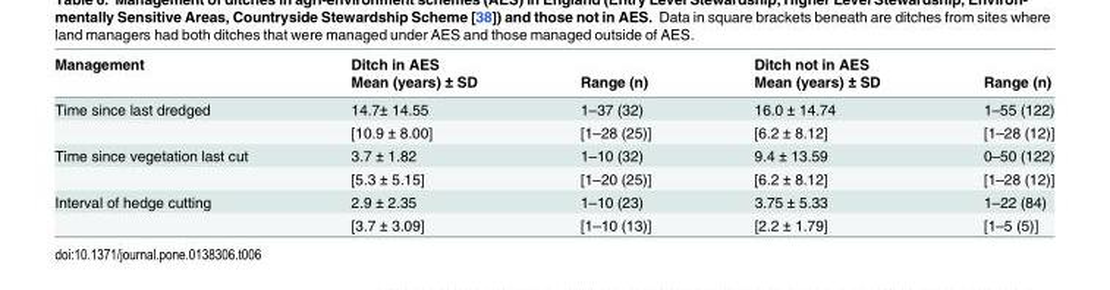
<table><thead><tr><td rowspan="2">Management</td><td rowspan="2">Ditch in AES Mean (years) ± SD</td><td rowspan="2">Range (n)</td><td rowspan="2">Ditch not in AES Mean (years) ± SD</td><td rowspan="2">Range (n)</td></tr><tr></tr></thead><tbody><tr><td rowspan="2">Time since last dredged</td><td>14.7± 14.55</td><td>1–37 (32)</td><td>16.0 ± 14.74</td><td>1–55 (122)</td></tr><tr><td>[10.9 ± 8.00]</td><td>[1–28 (25)]</td><td>[6.2 ± 8.12]</td><td>[1–28 (12)]</td></tr><tr><td rowspan="2">Time since vegetation last cut</td><td>3.7 ± 1.82</td><td>1–10 (32)</td><td>9.4 ± 13.59</td><td>0–50 (122)</td></tr><tr><td>[5.3 ± 5.15]</td><td>[1–20 (25)]</td><td>[6.2 ± 8.12]</td><td>[1–28 (12)]</td></tr><tr><td rowspan="2">Interval of hedge cutting</td><td>2.9 ± 2.35</td><td>1–10 (23)</td><td>3.75 ± 5.33</td><td>1–22 (84)</td></tr><tr><td>[3.7 ± 3.09]</td><td>[1–10 (13)]</td><td>[2.2 ± 1.79]</td><td>[1–5 (5)]</td></tr></tbody></table>